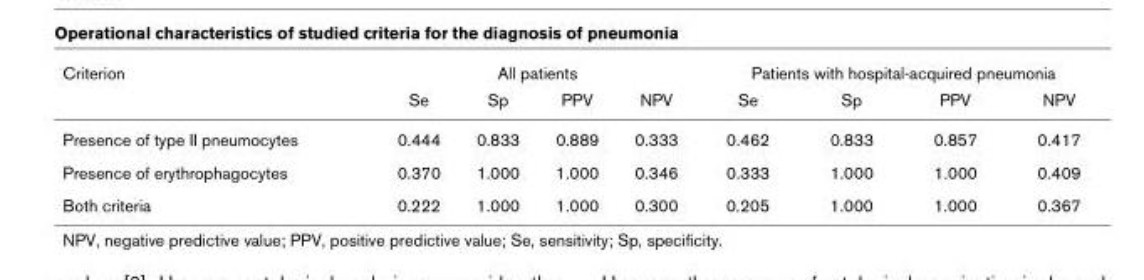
<table><thead><tr><td rowspan="2">Criterion</td><td colspan="4">All patients</td><td colspan="4">Patients with hospital-acquired pneumonia</td></tr><tr><td>Se</td><td>Sp</td><td>PPV</td><td>NPV</td><td>Se</td><td>Sp</td><td>PPV</td><td>NPV</td></tr></thead><tbody><tr><td>Presence of type II pneumocytes</td><td>0.444</td><td>0.833</td><td>0.889</td><td>0.333</td><td>0.462</td><td>0.833</td><td>0.857</td><td>0.417</td></tr><tr><td>Presence of erythrophagocytes</td><td>0.370</td><td>1.000</td><td>1.000</td><td>0.346</td><td>0.333</td><td>1.000</td><td>1.000</td><td>0.409</td></tr><tr><td>Both criteria</td><td>0.222</td><td>1.000</td><td>1.000</td><td>0.300</td><td>0.205</td><td>1.000</td><td>1.000</td><td>0.367</td></tr></tbody></table>